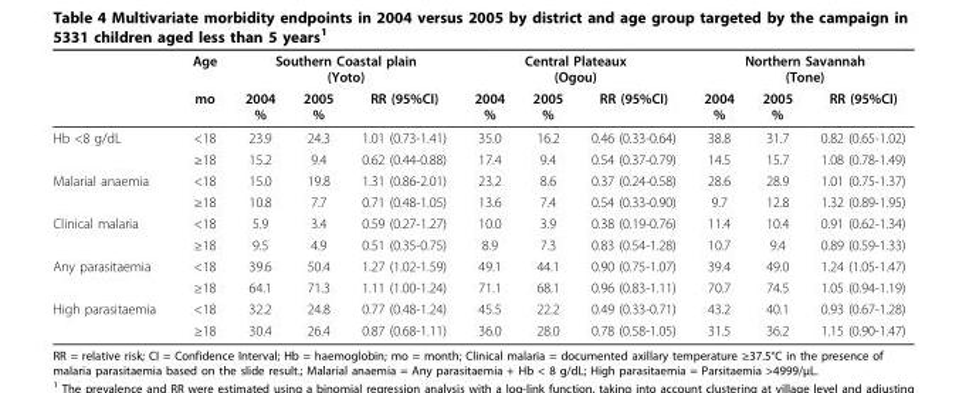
<table><thead><tr><td rowspan="2"></td><td rowspan="2">Age mo</td><td colspan="3">Southern Coastal plain (Yoto)</td><td colspan="3">Central Plateaux (Ogou)</td><td colspan="3">Northern Savannah (Tone)</td></tr><tr><td>2004 %</td><td>2005 %</td><td>RR (95%CI)</td><td>2004 %</td><td>2005 %</td><td>RR (95%CI)</td><td>2004 %</td><td>2005 %</td><td>RR (95%CI)</td></tr></thead><tbody><tr><td rowspan="2">Hb &lt;8 g/dL</td><td>&lt;18</td><td>23.9</td><td>24.3</td><td>1.01 (0.73-1.41)</td><td>35.0</td><td>16.2</td><td>0.46 (0.33-0.64)</td><td>38.8</td><td>31.7</td><td>0.82 (0.65-1.02)</td></tr><tr><td>≥18</td><td>15.2</td><td>9.4</td><td>0.62 (0.44-0.88)</td><td>17.4</td><td>9.4</td><td>0.54 (0.37-0.79)</td><td>14.5</td><td>15.7</td><td>1.08 (0.78-1.49)</td></tr><tr><td rowspan="2">Malarial anaemia</td><td>&lt;18</td><td>15.0</td><td>19.8</td><td>1.31 (0.86-2.01)</td><td>23.2</td><td>8.6</td><td>0.37 (0.24-0.58)</td><td>28.6</td><td>28.9</td><td>1.01 (0.75-1.37)</td></tr><tr><td>≥18</td><td>10.8</td><td>7.7</td><td>0.71 (0.48-1.05)</td><td>13.6</td><td>7.4</td><td>0.54 (0.33-0.90)</td><td>9.7</td><td>12.8</td><td>1.32 (0.89-1.95)</td></tr><tr><td rowspan="2">Clinical malaria</td><td>&lt;18</td><td>5.9</td><td>3.4</td><td>0.59 (0.27-1.27)</td><td>10.0</td><td>3.9</td><td>0.38 (0.19-0.76)</td><td>11.4</td><td>10.4</td><td>0.91 (0.62-1.34)</td></tr><tr><td>≥18</td><td>9.5</td><td>4.9</td><td>0.51 (0.35-0.75)</td><td>8.9</td><td>7.3</td><td>0.83 (0.54-1.28)</td><td>10.7</td><td>9.4</td><td>0.89 (0.59-1.33)</td></tr><tr><td rowspan="2">Any parasitaemia</td><td>&lt;18</td><td>39.6</td><td>50.4</td><td>1.27 (1.02-1.59)</td><td>49.1</td><td>44.1</td><td>0.90 (0.75-1.07)</td><td>39.4</td><td>49.0</td><td>1.24 (1.05-1.47)</td></tr><tr><td>≥18</td><td>64.1</td><td>71.3</td><td>1.11 (1.00-1.24)</td><td>71.1</td><td>68.1</td><td>0.96 (0.83-1.11)</td><td>70.7</td><td>74.5</td><td>1.05 (0.94-1.19)</td></tr><tr><td rowspan="2">High parasitaemia</td><td>&lt;18</td><td>32.2</td><td>24.8</td><td>0.77 (0.48-1.24)</td><td>45.5</td><td>22.2</td><td>0.49 (0.33-0.71)</td><td>43.2</td><td>40.1</td><td>0.93 (0.67-1.28)</td></tr><tr><td>≥18</td><td>30.4</td><td>26.4</td><td>0.87 (0.68-1.11)</td><td>36.0</td><td>28.0</td><td>0.78 (0.58-1.05)</td><td>31.5</td><td>36.2</td><td>1.15 (0.90-1.47)</td></tr></tbody></table>